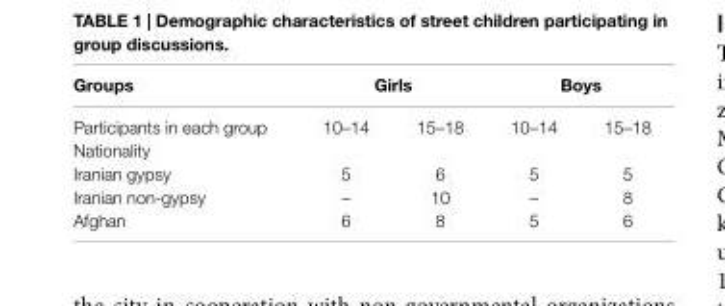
<table><thead><tr><td rowspan="2">groups Participants in each group</td><td colspan="2">girls</td><td colspan="2">Boys</td></tr><tr><td>10–14</td><td>15–18</td><td>10–14</td><td>15–18</td></tr></thead><tbody><tr><td colspan="5">Nationality</td></tr><tr><td>Iranian gypsy</td><td>5</td><td>6</td><td>5</td><td>5</td></tr><tr><td>Iranian non-gypsy</td><td>–</td><td>10</td><td>–</td><td>8</td></tr><tr><td>Afghan</td><td>6</td><td>8</td><td>5</td><td>6</td></tr></tbody></table>